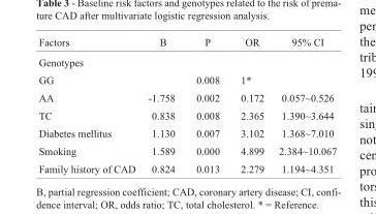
<table><thead><tr><td>Factors</td><td>B</td><td>P</td><td>OR</td><td>95% CI</td></tr></thead><tbody><tr><td colspan="5">Genotypes</td></tr><tr><td>GG</td><td></td><td>0.008</td><td>1*</td><td></td></tr><tr><td>AA</td><td>-1.758</td><td>0.002</td><td>0.172</td><td>0.057~0.526</td></tr><tr><td>TC</td><td>0.838</td><td>0.008</td><td>2.365</td><td>1.390~3.644</td></tr><tr><td>Diabetes mellitus</td><td>1.130</td><td>0.007</td><td>3.102</td><td>1.368~7.010</td></tr><tr><td>Smoking</td><td>1.589</td><td>0.000</td><td>4.899</td><td>2.384~10.067</td></tr><tr><td>Family history of CAD</td><td>0.824</td><td>0.013</td><td>2.279</td><td>1.194~4.351</td></tr></tbody></table>